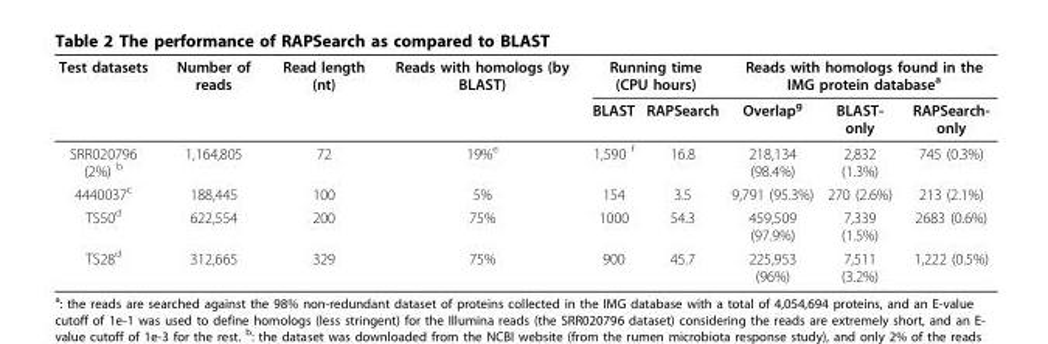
<table><thead><tr><td rowspan="2">Test datasets</td><td rowspan="2">Number of reads</td><td rowspan="2">Read length (nt)</td><td rowspan="2">Reads with homologs (by BLAST)</td><td colspan="2">Running time (CPU hours)</td><td colspan="3">Reads with homologs found in the IMG protein database<sup>a</sup></td></tr><tr><td>BLAST</td><td>RAPSearch</td><td>Overlap<sup>g</sup></td><td>BLAST- only</td><td>RAPSearch- only</td></tr></thead><tbody><tr><td>SRR020796 (2%) <sup>b</sup></td><td>1,164,805</td><td>72</td><td>19%<sup>e</sup></td><td>1,590 <sup>f</sup></td><td>16.8</td><td>218,134 (98.4%)</td><td>2,832 (1.3%)</td><td>745 (0.3%)</td></tr><tr><td>4440037<sup>c</sup></td><td>188,445</td><td>100</td><td>5%</td><td>154</td><td>3.5</td><td>9,791 (95.3%)</td><td>270 (2.6%)</td><td>213 (2.1%)</td></tr><tr><td>TS50<sup>d</sup></td><td>622,554</td><td>200</td><td>75%</td><td>1000</td><td>54.3</td><td>459,509 (97.9%)</td><td>7,339 (1.5%)</td><td>2683 (0.6%)</td></tr><tr><td>TS28<sup>d</sup></td><td>312,665</td><td>329</td><td>75%</td><td>900</td><td>45.7</td><td>225,953 (96%)</td><td>7,511 (3.2%)</td><td>1,222 (0.5%)</td></tr></tbody></table>